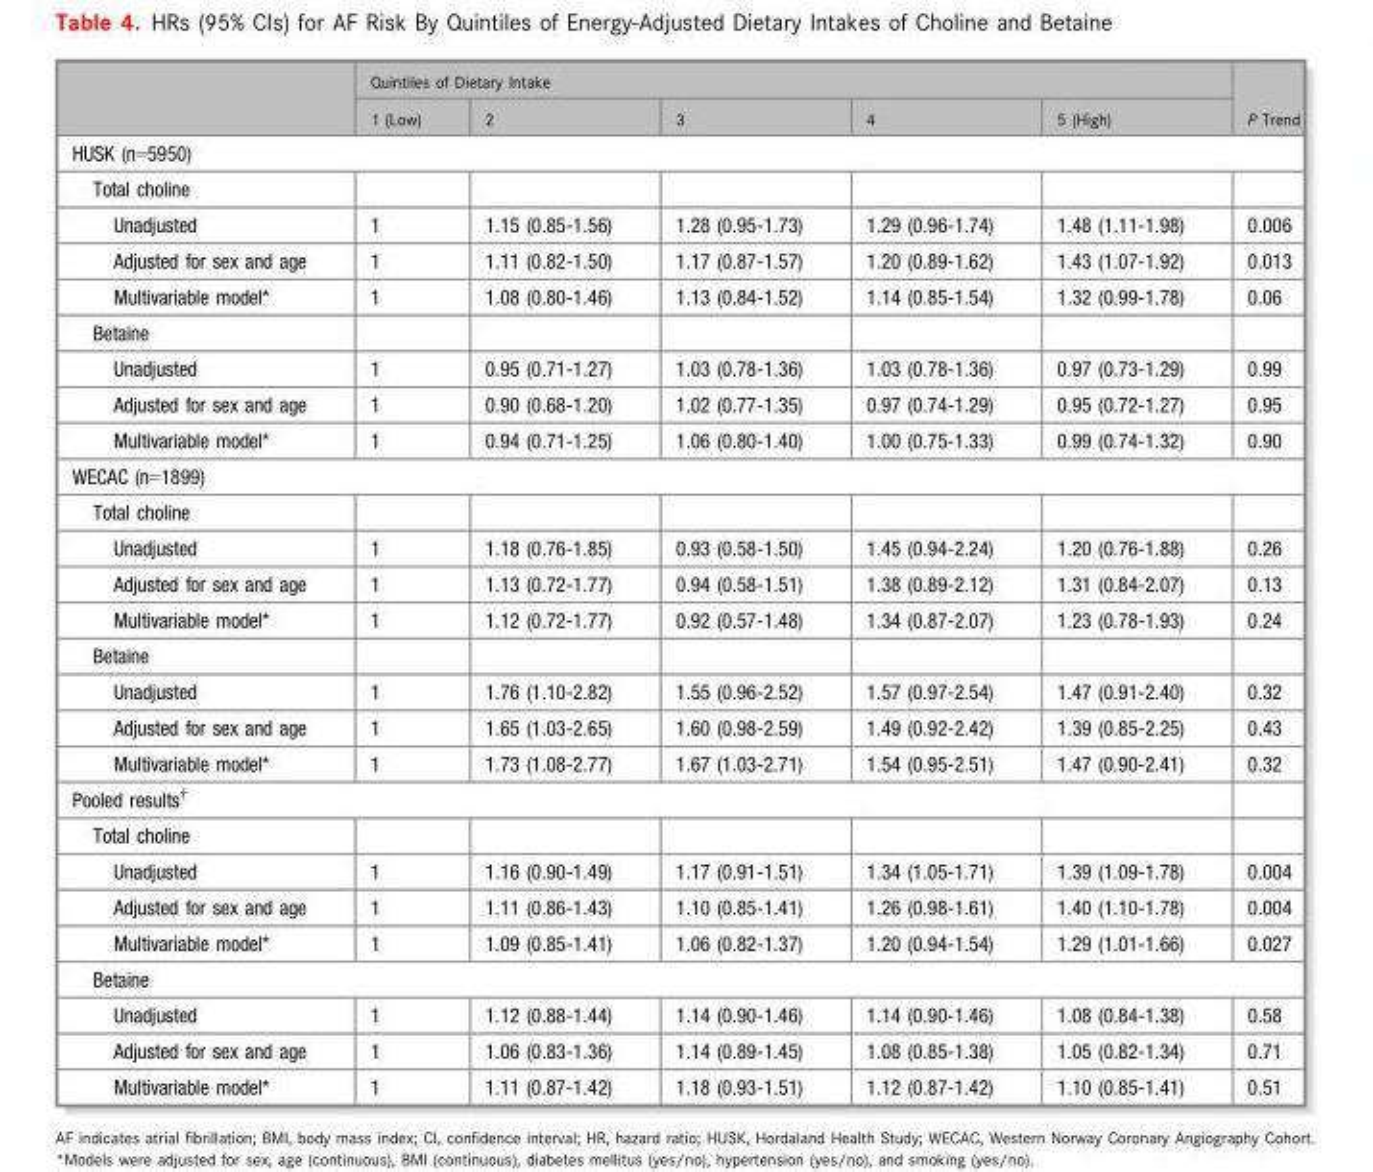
<table><thead><tr><td rowspan="2"></td><td colspan="5">Quintiles of Dietary Intake</td><td rowspan="2">P Trend</td></tr><tr><td>1 (Low)</td><td>2</td><td>3</td><td>4</td><td>5 (High)</td></tr></thead><tbody><tr><td colspan="7">HUSK (n=5950)</td></tr><tr><td colspan="7">Total choline</td></tr><tr><td>Unadjusted</td><td>1</td><td>1.15 (0.85-1.56)</td><td>1.28 (0.95-1.73)</td><td>1.29 (0.96-1.74)</td><td>1.48 (1.11-1.98)</td><td>0.006</td></tr><tr><td>Adjusted for sex and age</td><td>1</td><td>1.11 (0.82-1.50)</td><td>1.17 (0.87-1.57)</td><td>1.20 (0.89-1.62)</td><td>1.43 (1.07-1.92)</td><td>0.013</td></tr><tr><td>Multivariable model*</td><td>1</td><td>1.08 (0.80-1.46)</td><td>1.13 (0.84-1.52)</td><td>1.14 (0.85-1.54)</td><td>1.32 (0.99-1.78)</td><td>0.06</td></tr><tr><td colspan="7">Betaine</td></tr><tr><td>Unadjusted</td><td>1</td><td>0.95 (0.71-1.27)</td><td>1.03 (0.78-1.36)</td><td>1.03 (0.78-1.36)</td><td>0.97 (0.73-1.29)</td><td>0.99</td></tr><tr><td>Adjusted for sex and age</td><td>1</td><td>0.90 (0.68-1.20)</td><td>1.02 (0.77-1.35)</td><td>0.97 (0.74-1.29)</td><td>0.95 (0.72-1.27)</td><td>0.95</td></tr><tr><td>Multivariable model*</td><td>1</td><td>0.94 (0.71-1.25)</td><td>1.06 (0.80-1.40)</td><td>1.00 (0.75-1.33)</td><td>0.99 (0.74-1.32)</td><td>0.90</td></tr><tr><td colspan="7">WECAC (n=1899)</td></tr><tr><td colspan="7">Total choline</td></tr><tr><td>Unadjusted</td><td>1</td><td>1.18 (0.76-1.85)</td><td>0.93 (0.58-1.50)</td><td>1.45 (0.94-2.24)</td><td>1.20 (0.76-1.88)</td><td>0.26</td></tr><tr><td>Adjusted for sex and age</td><td>1</td><td>1.13 (0.72-1.77)</td><td>0.94 (0.58-1.51)</td><td>1.38 (0.89-2.12)</td><td>1.31 (0.84-2.07)</td><td>0.13</td></tr><tr><td>Multivariable model*</td><td>1</td><td>1.12 (0.72-1.77)</td><td>0.92 (0.57-1.48)</td><td>1.34 (0.87-2.07)</td><td>1.23 (0.78-1.93)</td><td>0.24</td></tr><tr><td colspan="7">Betaine</td></tr><tr><td>Unadjusted</td><td>1</td><td>1.76 (1.10-2.82)</td><td>1.55 (0.96-2.52)</td><td>1.57 (0.97-2.54)</td><td>1.47 (0.91-2.40)</td><td>0.32</td></tr><tr><td>Adjusted for sex and age</td><td>1</td><td>1.65 (1.03-2.65)</td><td>1.60 (0.98-2.59)</td><td>1.49 (0.92-2.42)</td><td>1.39 (0.85-2.25)</td><td>0.43</td></tr><tr><td>Multivariable model*</td><td>1</td><td>1.73 (1.08-2.77)</td><td>1.67 (1.03-2.71)</td><td>1.54 (0.95-2.51)</td><td>1.47 (0.90-2.41)</td><td>0.32</td></tr><tr><td colspan="7">Pooled results†</td></tr><tr><td colspan="7">Total choline</td></tr><tr><td>Unadjusted</td><td>1</td><td>1.16 (0.90-1.49)</td><td>1.17 (0.91-1.51)</td><td>1.34 (1.05-1.71)</td><td>1.39 (1.09-1.78)</td><td>0.004</td></tr><tr><td>Adjusted for sex and age</td><td>1</td><td>1.11 (0.86-1.43)</td><td>1.10 (0.85-1.41)</td><td>1.26 (0.98-1.61)</td><td>1.40 (1.10-1.78)</td><td>0.004</td></tr><tr><td>Multivariable model*</td><td>1</td><td>1.09 (0.85-1.41)</td><td>1.06 (0.82-1.37)</td><td>1.20 (0.94-1.54)</td><td>1.29 (1.01-1.66)</td><td>0.027</td></tr><tr><td colspan="7">Betaine</td></tr><tr><td>Unadjusted</td><td>1</td><td>1.12 (0.88-1.44)</td><td>1.14 (0.90-1.46)</td><td>1.14 (0.90-1.46)</td><td>1.08 (0.84-1.38)</td><td>0.58</td></tr><tr><td>Adjusted for sex and age</td><td>1</td><td>1.06 (0.83-1.36)</td><td>1.14 (0.89-1.45)</td><td>1.08 (0.85-1.38)</td><td>1.05 (0.82-1.34)</td><td>0.71</td></tr><tr><td>Multivariable model*</td><td>1</td><td>1.11 (0.87-1.42)</td><td>1.18 (0.93-1.51)</td><td>1.12 (0.87-1.42)</td><td>1.10 (0.85-1.41)</td><td>0.51</td></tr></tbody></table>